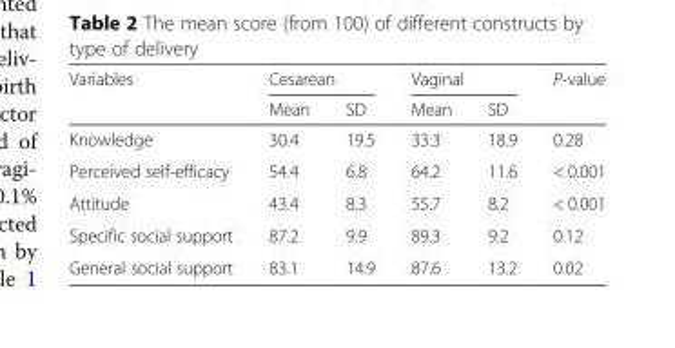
<table><thead><tr><td rowspan="2">Variables</td><td colspan="2">Cesarean</td><td colspan="2">Vaginal</td><td rowspan="2">P-value</td></tr><tr><td>Mean</td><td>SD</td><td>Mean</td><td>SD</td></tr></thead><tbody><tr><td>Knowledge</td><td>30.4</td><td>19.5</td><td>33.3</td><td>18.9</td><td>0.28</td></tr><tr><td>Perceived self-efficacy</td><td>54.4</td><td>6.8</td><td>64.2</td><td>11.6</td><td>&lt; 0.001</td></tr><tr><td>Attitude</td><td>43.4</td><td>8.3</td><td>55.7</td><td>8.2</td><td>&lt; 0.001</td></tr><tr><td>Specific social support</td><td>87.2</td><td>9.9</td><td>89.3</td><td>9.2</td><td>0.12</td></tr><tr><td>General social support</td><td>83.1</td><td>14.9</td><td>87.6</td><td>13.2</td><td>0.02</td></tr></tbody></table>